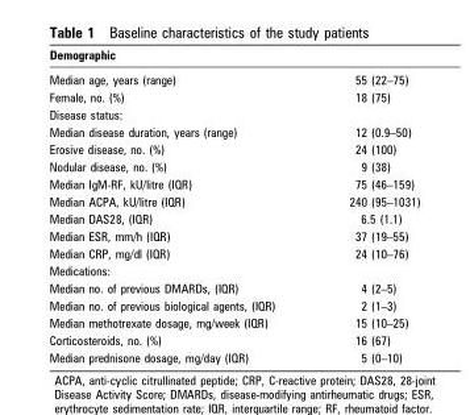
<table><thead><tr><td>Demographic</td><td></td></tr></thead><tbody><tr><td>Median age, years (range)</td><td>55 (22–75)</td></tr><tr><td>Female, no. (%)</td><td>18 (75)</td></tr><tr><td colspan="2">Disease status:</td></tr><tr><td>Median disease duration, years (range)</td><td>12 (0.9–50)</td></tr><tr><td>Erosive disease, no. (%)</td><td>24 (100)</td></tr><tr><td>Nodular disease, no. (%)</td><td>9 (38)</td></tr><tr><td>Median IgM-RF, kU/litre (IQR)</td><td>75 (46–159)</td></tr><tr><td>Median ACPA, kU/litre (IQR)</td><td>240 (95–1031)</td></tr><tr><td>Median DAS28, (IQR)</td><td>6.5 (1.1)</td></tr><tr><td>Median ESR, mm/h (IQR)</td><td>37 (19–55)</td></tr><tr><td>Median CRP, mg/dl (IQR)</td><td>24 (10–76)</td></tr><tr><td colspan="2">Medications:</td></tr><tr><td>Median no. of previous DMARDs, (IQR)</td><td>4 (2–5)</td></tr><tr><td>Median no. of previous biological agents, (IQR)</td><td>2 (1–3)</td></tr><tr><td>Median methotrexate dosage, mg/week (IQR)</td><td>15 (10–25)</td></tr><tr><td>Corticosteroids, no. (%)</td><td>16 (67)</td></tr><tr><td>Median prednisone dosage, mg/day (IQR)</td><td>5 (0–10)</td></tr></tbody></table>